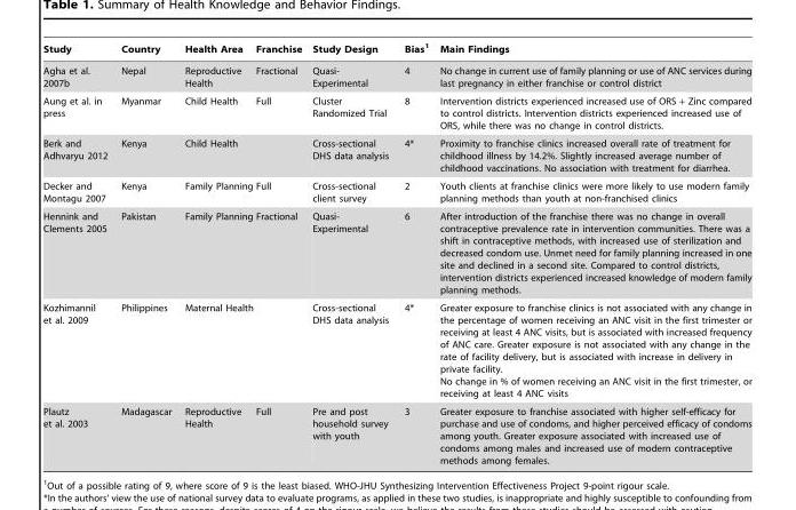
<table><thead><tr><td>Study</td><td>Country</td><td>Health Area</td><td>Franchise</td><td>Study Design</td><td>Bias<sup>1</sup></td><td>Main Findings</td></tr></thead><tbody><tr><td>Agha et al. 2007b</td><td>Nepal</td><td>Reproductive Health</td><td>Fractional</td><td>Quasi- Experimental</td><td>4</td><td>No change in current use of family planning or use of ANC services during last pregnancy in either franchise or control district</td></tr><tr><td>Aung et al. in press</td><td>Myanmar</td><td>Child Health</td><td>Full</td><td>Cluster Randomized Trial</td><td>8</td><td>Intervention districts experienced increased use of ORS + Zinc compared to control districts. Intervention districts experienced increased use of ORS, while there was no change in control districts.</td></tr><tr><td>Berk and Adhvaryu 2012</td><td>Kenya</td><td>Child Health</td><td></td><td>Cross-sectional DHS data analysis</td><td>4*</td><td>Proximity to franchise clinics increased overall rate of treatment for childhood illness by 14.2%. Slightly increased average number of childhood vaccinations. No association with treatment for diarrhea.</td></tr><tr><td>Decker and Montagu 2007</td><td>Kenya</td><td>Family Planning</td><td>Full</td><td>Cross-sectional client survey</td><td>2</td><td>Youth clients at franchise clinics were more likely to use modern family planning methods than youth at non-franchised clinics</td></tr><tr><td>Hennink and Clements 2005</td><td>Pakistan</td><td>Family Planning</td><td>Fractional</td><td>Quasi- Experimental</td><td>6</td><td>After introduction of the franchise there was no change in overall contraceptive prevalence rate in intervention communities. There was a shift in contraceptive methods, with increased use of sterilization and decreased condom use. Unmet need for family planning increased in one site and declined in a second site. Compared to control districts, intervention districts experienced increased knowledge of modern family planning methods.</td></tr><tr><td>Kozhimannil et al. 2009</td><td>Philippines</td><td>Maternal Health</td><td></td><td>Cross-sectional DHS data analysis</td><td>4*</td><td>Greater exposure to franchise clinics is not associated with any change in the percentage of women receiving an ANC visit in the first trimester or receiving at least 4 ANC visits, but is associated with increased frequency of ANC care. Greater exposure is not associated with any change in the rate of facility delivery, but is associated with increase in delivery in private facility. No change in % of women receiving an ANC visit in the first trimester, or receiving at least 4 ANC visits</td></tr><tr><td>Plautz et al. 2003</td><td>Madagascar</td><td>Reproductive Health</td><td>Full</td><td>Pre and post household survey with youth</td><td>3</td><td>Greater exposure to franchise associated with higher self-efficacy for purchase and use of condoms, and higher perceived efficacy of condoms among youth. Greater exposure associated with increased use of condoms among males and increased use of modern contraceptive methods among females.</td></tr></tbody></table>